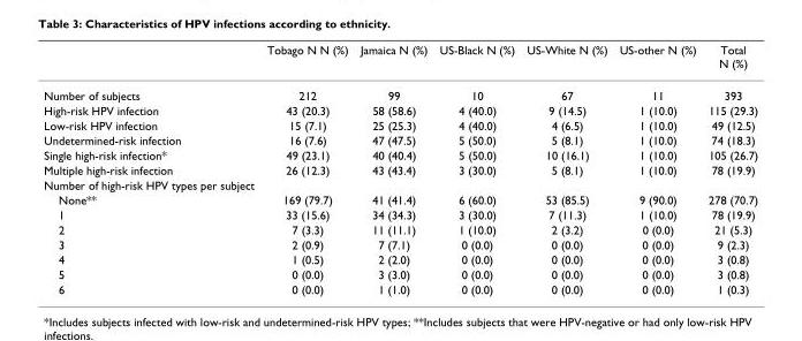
<table><thead><tr><td></td><td>Tobago N N (%)</td><td>Jamaica N (%)</td><td>US-Black N (%)</td><td>US-White N (%)</td><td>US-other N (%)</td><td>Total N (%)</td></tr></thead><tbody><tr><td>Number of subjects</td><td>212</td><td>99</td><td>10</td><td>67</td><td>11</td><td>393</td></tr><tr><td>High-risk HPV infection</td><td>43 (20.3)</td><td>58 (58.6)</td><td>4 (40.0)</td><td>9 (14.5)</td><td>1 (10.0)</td><td>115 (29.3)</td></tr><tr><td>Low-risk HPV infection</td><td>15 (7.1)</td><td>25 (25.3)</td><td>4 (40.0)</td><td>4 (6.5)</td><td>1 (10.0)</td><td>49 (12.5)</td></tr><tr><td>Undetermined-risk infection</td><td>16 (7.6)</td><td>47 (47.5)</td><td>5 (50.0)</td><td>5 (8.1)</td><td>1 (10.0)</td><td>74 (18.3)</td></tr><tr><td>Single high-risk infection*</td><td>49 (23.1)</td><td>40 (40.4)</td><td>5 (50.0)</td><td>10 (16.1)</td><td>1 (10.0)</td><td>105 (26.7)</td></tr><tr><td>Multiple high-risk infection</td><td>26 (12.3)</td><td>43 (43.4)</td><td>3 (30.0)</td><td>5 (8.1)</td><td>1 (10.0)</td><td>78 (19.9)</td></tr><tr><td colspan="7">Number of high-risk HPV types per subject</td></tr><tr><td>None**</td><td>169 (79.7)</td><td>41 (41.4)</td><td>6 (60.0)</td><td>53 (85.5)</td><td>9 (90.0)</td><td>278 (70.7)</td></tr><tr><td>1</td><td>33 (15.6)</td><td>34 (34.3)</td><td>3 (30.0)</td><td>7 (11.3)</td><td>1 (10.0)</td><td>78 (19.9)</td></tr><tr><td>2</td><td>7 (3.3)</td><td>11 (11.1)</td><td>1 (10.0)</td><td>2 (3.2)</td><td>0 (0.0)</td><td>21 (5.3)</td></tr><tr><td>3</td><td>2 (0.9)</td><td>7 (7.1)</td><td>0 (0.0)</td><td>0 (0.0)</td><td>0 (0.0)</td><td>9 (2.3)</td></tr><tr><td>4</td><td>1 (0.5)</td><td>2 (2.0)</td><td>0 (0.0)</td><td>0 (0.0)</td><td>0 (0.0)</td><td>3 (0.8)</td></tr><tr><td>5</td><td>0 (0.0)</td><td>3 (3.0)</td><td>0 (0.0)</td><td>0 (0.0)</td><td>0 (0.0)</td><td>3 (0.8)</td></tr><tr><td>6</td><td>0 (0.0)</td><td>1 (1.0)</td><td>0 (0.0)</td><td>0 (0.0)</td><td>0 (0.0)</td><td>1 (0.3)</td></tr></tbody></table>